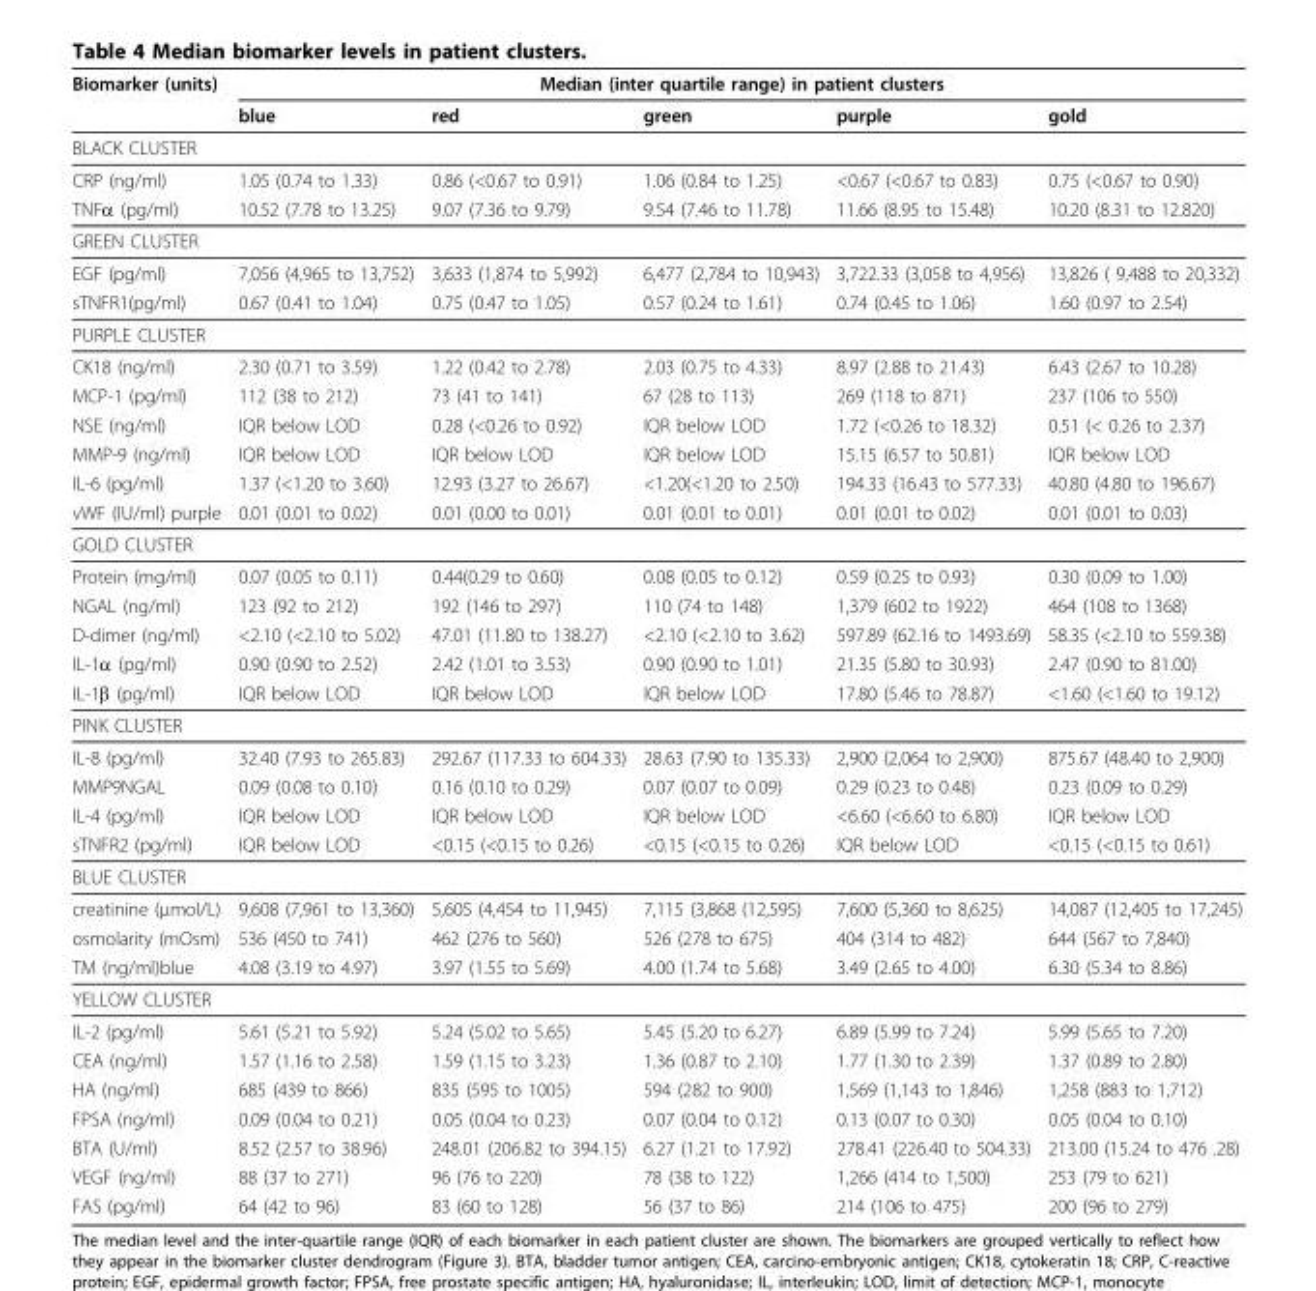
<table><thead><tr><td rowspan="2">Biomarker (units)</td><td colspan="5">Median (inter quartile range) in patient clusters</td></tr><tr><td>blue</td><td>red</td><td>green</td><td>purple</td><td>gold</td></tr></thead><tbody><tr><td colspan="6">BLACK CLUSTER</td></tr><tr><td>CRP (ng/ml)</td><td>1.05 (0.74 to 1.33)</td><td>0.86 (&lt;0.67 to 0.91)</td><td>1.06 (0.84 to 1.25)</td><td>&lt;0.67 (&lt;0.67 to 0.83)</td><td>0.75 (&lt;0.67 to 0.90)</td></tr><tr><td>TNFα (pg/ml)</td><td>10.52 (7.78 to 13.25)</td><td>9.07 (7.36 to 9.79)</td><td>9.54 (7.46 to 11.78)</td><td>11.66 (8.95 to 15.48)</td><td>10.20 (8.31 to 12.820)</td></tr><tr><td colspan="6">GREEN CLUSTER</td></tr><tr><td>EGF (pg/ml)</td><td>7,056 (4,965 to 13,752)</td><td>3,633 (1,874 to 5,992)</td><td>6,477 (2,784 to 10,943)</td><td>3,722.33 (3,058 to 4,956)</td><td>13,826 ( 9,488 to 20,332)</td></tr><tr><td>sTNFR1(pg/ml)</td><td>0.67 (0.41 to 1.04)</td><td>0.75 (0.47 to 1.05)</td><td>0.57 (0.24 to 1.61)</td><td>0.74 (0.45 to 1.06)</td><td>1.60 (0.97 to 2.54)</td></tr><tr><td colspan="6">PURPLE CLUSTER</td></tr><tr><td>CK18 (ng/ml)</td><td>2.30 (0.71 to 3.59)</td><td>1.22 (0.42 to 2.78)</td><td>2.03 (0.75 to 4.33)</td><td>8.97 (2.88 to 21.43)</td><td>6.43 (2.67 to 10.28)</td></tr><tr><td>MCP-1 (pg/ml)</td><td>112 (38 to 212)</td><td>73 (41 to 141)</td><td>67 (28 to 113)</td><td>269 (118 to 871)</td><td>237 (106 to 550)</td></tr><tr><td>NSE (ng/ml)</td><td>IQR below LOD</td><td>0.28 (&lt;0.26 to 0.92)</td><td>IQR below LOD</td><td>1.72 (&lt;0.26 to 18.32)</td><td>0.51 (&lt; 0.26 to 2.37)</td></tr><tr><td>MMP-9 (ng/ml)</td><td>IQR below LOD</td><td>IQR below LOD</td><td>IQR below LOD</td><td>15.15 (6.57 to 50.81)</td><td>IQR below LOD</td></tr><tr><td>IL-6 (pg/ml)</td><td>1.37 (&lt;1.20 to 3.60)</td><td>12.93 (3.27 to 26.67)</td><td>&lt;1.20(&lt;1.20 to 2.50)</td><td>194.33 (16.43 to 577.33)</td><td>40.80 (4.80 to 196.67)</td></tr><tr><td>vWF (IU/ml) purple</td><td>0.01 (0.01 to 0.02)</td><td>0.01 (0.00 to 0.01)</td><td>0.01 (0.01 to 0.01)</td><td>0.01 (0.01 to 0.02)</td><td>0.01 (0.01 to 0.03)</td></tr><tr><td colspan="6">GOLD CLUSTER</td></tr><tr><td>Protein (mg/ml)</td><td>0.07 (0.05 to 0.11)</td><td>0.44(0.29 to 0.60)</td><td>0.08 (0.05 to 0.12)</td><td>0.59 (0.25 to 0.93)</td><td>0.30 (0.09 to 1.00)</td></tr><tr><td>NGAL (ng/ml)</td><td>123 (92 to 212)</td><td>192 (146 to 297)</td><td>110 (74 to 148)</td><td>1,379 (602 to 1922)</td><td>464 (108 to 1368)</td></tr><tr><td>D-dimer (ng/ml)</td><td>&lt;2.10 (&lt;2.10 to 5.02)</td><td>47.01 (11.80 to 138.27)</td><td>&lt;2.10 (&lt;2.10 to 3.62)</td><td>597.89 (62.16 to 1493.69)</td><td>58.35 (&lt;2.10 to 559.38)</td></tr><tr><td>IL-1α (pg/ml)</td><td>0.90 (0.90 to 2.52)</td><td>2.42 (1.01 to 3.53)</td><td>0.90 (0.90 to 1.01)</td><td>21.35 (5.80 to 30.93)</td><td>2.47 (0.90 to 81.00)</td></tr><tr><td>IL-1β (pg/ml)</td><td>IQR below LOD</td><td>IQR below LOD</td><td>IQR below LOD</td><td>17.80 (5.46 to 78.87)</td><td>&lt;1.60 (&lt;1.60 to 19.12)</td></tr><tr><td colspan="6">PINK CLUSTER</td></tr><tr><td>IL-8 (pg/ml)</td><td>32.40 (7.93 to 265.83)</td><td>292.67 (117.33 to 604.33)</td><td>28.63 (7.90 to 135.33)</td><td>2,900 (2,064 to 2,900)</td><td>875.67 (48.40 to 2,900)</td></tr><tr><td>MMP9NGAL</td><td>0.09 (0.08 to 0.10)</td><td>0.16 (0.10 to 0.29)</td><td>0.07 (0.07 to 0.09)</td><td>0.29 (0.23 to 0.48)</td><td>0.23 (0.09 to 0.29)</td></tr><tr><td>IL-4 (pg/ml)</td><td>IQR below LOD</td><td>IQR below LOD</td><td>IQR below LOD</td><td>&lt;6.60 (&lt;6.60 to 6.80)</td><td>IQR below LOD</td></tr><tr><td>sTNFR2 (pg/ml)</td><td>IQR below LOD</td><td>&lt;0.15 (&lt;0.15 to 0.26)</td><td>&lt;0.15 (&lt;0.15 to 0.26)</td><td>IQR below LOD</td><td>&lt;0.15 (&lt;0.15 to 0.61)</td></tr><tr><td colspan="6">BLUE CLUSTER</td></tr><tr><td>creatinine (µmol/L)</td><td>9,608 (7,961 to 13,360)</td><td>5,605 (4,454 to 11,945)</td><td>7,115 (3,868 (12,595)</td><td>7,600 (5,360 to 8,625)</td><td>14,087 (12,405 to 17,245)</td></tr><tr><td>osmolarity (mOsm)</td><td>536 (450 to 741)</td><td>462 (276 to 560)</td><td>526 (278 to 675)</td><td>404 (314 to 482)</td><td>644 (567 to 7,840)</td></tr><tr><td>TM (ng/ml)blue</td><td>4.08 (3.19 to 4.97)</td><td>3.97 (1.55 to 5.69)</td><td>4.00 (1.74 to 5.68)</td><td>3.49 (2.65 to 4.00)</td><td>6.30 (5.34 to 8.86)</td></tr><tr><td colspan="6">YELLOW CLUSTER</td></tr><tr><td>IL-2 (pg/ml)</td><td>5.61 (5.21 to 5.92)</td><td>5.24 (5.02 to 5.65)</td><td>5.45 (5.20 to 6.27)</td><td>6.89 (5.99 to 7.24)</td><td>5.99 (5.65 to 7.20)</td></tr><tr><td>CEA (ng/ml)</td><td>1.57 (1.16 to 2.58)</td><td>1.59 (1.15 to 3.23)</td><td>1.36 (0.87 to 2.10)</td><td>1.77 (1.30 to 2.39)</td><td>1.37 (0.89 to 2.80)</td></tr><tr><td>HA (ng/ml)</td><td>685 (439 to 866)</td><td>835 (595 to 1005)</td><td>594 (282 to 900)</td><td>1,569 (1,143 to 1,846)</td><td>1,258 (883 to 1,712)</td></tr><tr><td>FPSA (ng/ml)</td><td>0.09 (0.04 to 0.21)</td><td>0.05 (0.04 to 0.23)</td><td>0.07 (0.04 to 0.12)</td><td>0.13 (0.07 to 0.30)</td><td>0.05 (0.04 to 0.10)</td></tr><tr><td>BTA (U/ml)</td><td>8.52 (2.57 to 38.96)</td><td>248.01 (206.82 to 394.15)</td><td>6.27 (1.21 to 17.92)</td><td>278.41 (226.40 to 504.33)</td><td>213.00 (15.24 to 476 .28)</td></tr><tr><td>VEGF (ng/ml)</td><td>88 (37 to 271)</td><td>96 (76 to 220)</td><td>78 (38 to 122)</td><td>1,266 (414 to 1,500)</td><td>253 (79 to 621)</td></tr><tr><td>FAS (pg/ml)</td><td>64 (42 to 96)</td><td>83 (60 to 128)</td><td>56 (37 to 86)</td><td>214 (106 to 475)</td><td>200 (96 to 279)</td></tr></tbody></table>